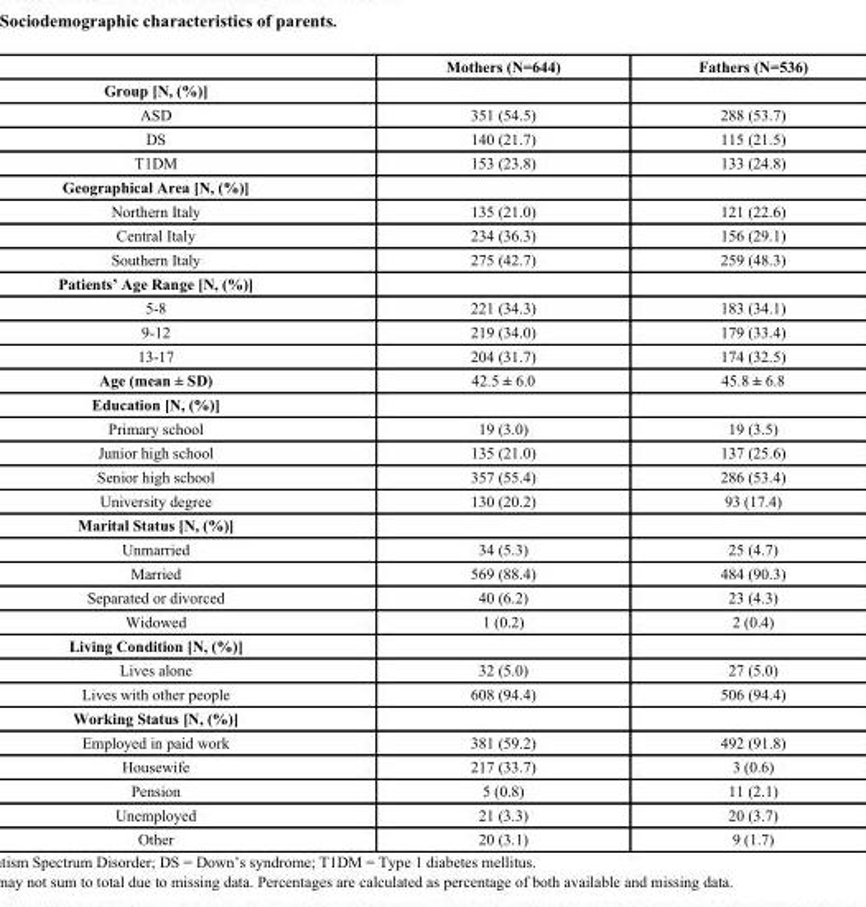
<table><thead><tr><td></td><td>Mothers (N=644)</td><td>Fathers (N=536)</td></tr></thead><tbody><tr><td colspan="3">Group [N, (%)]</td></tr><tr><td>ASD</td><td>351 (54.5)</td><td>288 (53.7)</td></tr><tr><td>DS</td><td>140 (21.7)</td><td>115 (21.5)</td></tr><tr><td>T1DM</td><td>153 (23.8)</td><td>133 (24.8)</td></tr><tr><td colspan="3">Geographical Area [N, (%)]</td></tr><tr><td>Northern Italy</td><td>135 (21.0)</td><td>121 (22.6)</td></tr><tr><td>Central Italy</td><td>234 (36.3)</td><td>156 (29.1)</td></tr><tr><td>Southern Italy</td><td>275 (42.7)</td><td>259 (48.3)</td></tr><tr><td colspan="3">Patients’ Age Range [N, (%)]</td></tr><tr><td>5-8</td><td>221 (34.3)</td><td>183 (34.1)</td></tr><tr><td>9-12</td><td>219 (34.0)</td><td>179 (33.4)</td></tr><tr><td>13-17</td><td>204 (31.7)</td><td>174 (32.5)</td></tr><tr><td>Age (mean ± SD)</td><td>42.5 ± 6.0</td><td>45.8 ± 6.8</td></tr><tr><td colspan="3">Education [N, (%)]</td></tr><tr><td>Primary school</td><td>19 (3.0)</td><td>19 (3.5)</td></tr><tr><td>Junior high school</td><td>135 (21.0)</td><td>137 (25.6)</td></tr><tr><td>Senior high school</td><td>357 (55.4)</td><td>286 (53.4)</td></tr><tr><td>University degree</td><td>130 (20.2)</td><td>93 (17.4)</td></tr><tr><td colspan="3">Marital Status [N, (%)]</td></tr><tr><td>Unmarried</td><td>34 (5.3)</td><td>25 (4.7)</td></tr><tr><td>Married</td><td>569 (88.4)</td><td>484 (90.3)</td></tr><tr><td>Separated or divorced</td><td>40 (6.2)</td><td>23 (4.3)</td></tr><tr><td>Widowed</td><td>1 (0.2)</td><td>2 (0.4)</td></tr><tr><td colspan="3">Living Condition [N, (%)]</td></tr><tr><td>Lives alone</td><td>32 (5.0)</td><td>27 (5.0)</td></tr><tr><td>Lives with other people</td><td>608 (94.4)</td><td>506 (94.4)</td></tr><tr><td colspan="3">Working Status [N, (%)]</td></tr><tr><td>Employed in paid work</td><td>381 (59.2)</td><td>492 (91.8)</td></tr><tr><td>Housewife</td><td>217 (33.7)</td><td>3 (0.6)</td></tr><tr><td>Pension</td><td>5 (0.8)</td><td>11 (2.1)</td></tr><tr><td>Unemployed</td><td>21 (3.3)</td><td>20 (3.7)</td></tr><tr><td>Other</td><td>20 (3.1)</td><td>9 (1.7)</td></tr></tbody></table>